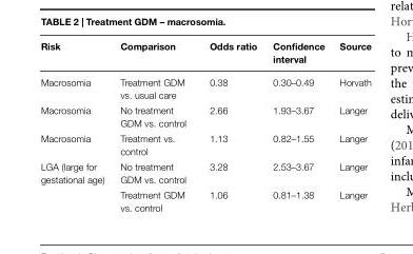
<table><thead><tr><td>Risk</td><td>Comparison</td><td>Odds ratio</td><td>Confidence interval</td><td>Source</td></tr></thead><tbody><tr><td>Macrosomia</td><td>Treatment GDM vs. usual care</td><td>0.38</td><td>0.30–0.49</td><td>Horvath</td></tr><tr><td>Macrosomia</td><td>No treatment GDM vs. control</td><td>2.66</td><td>1.93–3.67</td><td>Langer</td></tr><tr><td>Macrosomia</td><td>Treatment vs. control</td><td>1.13</td><td>0.82–1.55</td><td>Langer</td></tr><tr><td rowspan="2">LGA (large for gestational age)</td><td>No treatment GDM vs. control</td><td>3.28</td><td>2.53–3.67</td><td>Langer</td></tr><tr><td>Treatment GDM vs. control</td><td>1.06</td><td>0.81–1.38</td><td>Langer</td></tr></tbody></table>